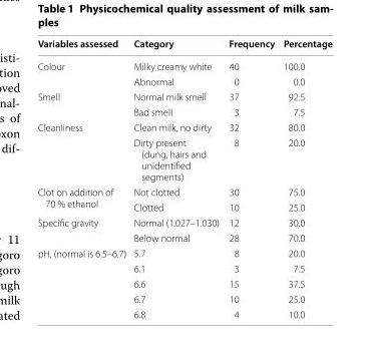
<table><thead><tr><td>Variables assessed</td><td>Category</td><td>Frequency</td><td>Percentage</td></tr></thead><tbody><tr><td rowspan="2">Colour</td><td>Milky creamy white</td><td>40</td><td>100.0</td></tr><tr><td>Abnormal</td><td>0</td><td>0.0</td></tr><tr><td rowspan="2">Smell</td><td>Normal milk smell</td><td>37</td><td>92.5</td></tr><tr><td>Bad smell</td><td>3</td><td>7.5</td></tr><tr><td rowspan="2">Cleanliness</td><td>Clean milk, no dirty</td><td>32</td><td>80.0</td></tr><tr><td>Dirty present (dung, hairs and unidentified segments)</td><td>8</td><td>20.0</td></tr><tr><td rowspan="2">Clot on addition of 70 % ethanol</td><td>Not clotted</td><td>30</td><td>75.0</td></tr><tr><td>Clotted</td><td>10</td><td>25.0</td></tr><tr><td rowspan="2">Specific gravity</td><td>Normal (1.027–1.030)</td><td>12</td><td>30.0</td></tr><tr><td>Below normal</td><td>28</td><td>70.0</td></tr><tr><td rowspan="5">pH, (normal is 6.5–6.7)</td><td>5.7</td><td>8</td><td>20.0</td></tr><tr><td>6.1</td><td>3</td><td>7.5</td></tr><tr><td>6.6</td><td>15</td><td>37.5</td></tr><tr><td>6.7</td><td>10</td><td>25.0</td></tr><tr><td>6.8</td><td>4</td><td>10.0</td></tr></tbody></table>